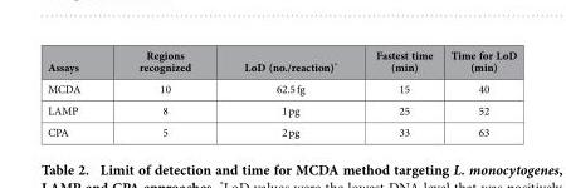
<table><thead><tr><td>Assays</td><td>Regions recognized</td><td>LoD (no./reaction)*</td><td>Fastest time (min)</td><td>Time for LoD (min)</td></tr></thead><tbody><tr><td>MCDA</td><td>10</td><td>62.5 fg</td><td>15</td><td>40</td></tr><tr><td>LAMP</td><td>8</td><td>1 pg</td><td>25</td><td>52</td></tr><tr><td>CPA</td><td>5</td><td>2 pg</td><td>33</td><td>63</td></tr></tbody></table>